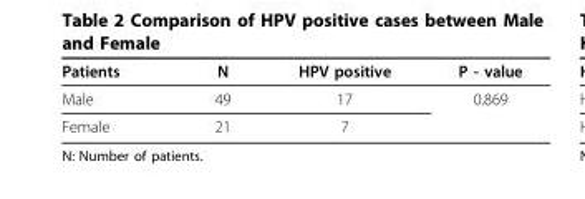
<table><thead><tr><td>Patients</td><td>N</td><td>HPV positive</td><td>P - value</td></tr></thead><tbody><tr><td>Male</td><td>49</td><td>17</td><td>0.869</td></tr><tr><td>Female</td><td>21</td><td>7</td><td></td></tr></tbody></table>